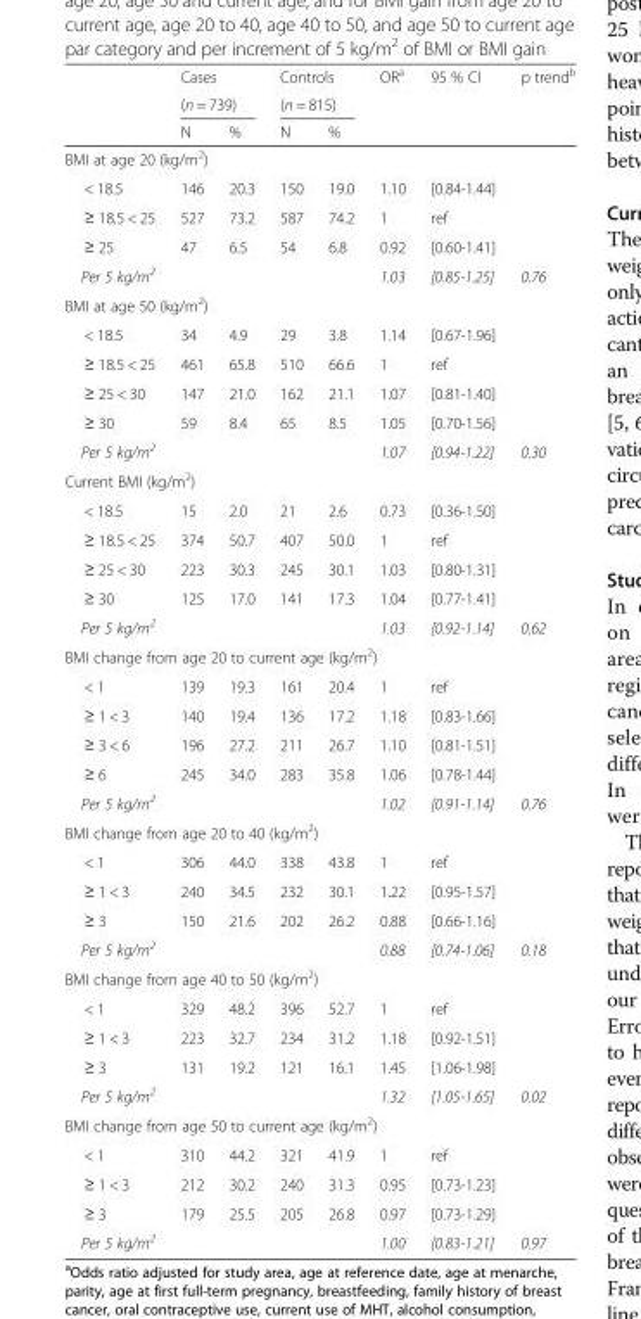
<table><thead><tr><td rowspan="3"></td><td rowspan="2" colspan="2">Cases (n = 739)</td><td rowspan="2" colspan="2">Controls (n = 815)</td><td rowspan="3">OR<sup>a</sup></td><td rowspan="3">95 % CI</td><td rowspan="3">p trend<sup>b</sup></td></tr><tr></tr><tr><td>N</td><td>%</td><td>N</td><td>%</td></tr></thead><tbody><tr><td colspan="8">BMI at age 20 (kg/m<sup>2</sup>)</td></tr><tr><td>&lt; 18.5</td><td>146</td><td>20.3</td><td>150</td><td>19.0</td><td>1.10</td><td>[0.84-1.44]</td><td></td></tr><tr><td>≥ 18.5 &lt; 25</td><td>527</td><td>73.2</td><td>587</td><td>74.2</td><td>1</td><td>ref</td><td></td></tr><tr><td>≥ 25</td><td>47</td><td>6.5</td><td>54</td><td>6.8</td><td>0.92</td><td>[0.60-1.41]</td><td></td></tr><tr><td>Per 5 kg/m<sup>2</sup></td><td colspan="2"></td><td colspan="2"></td><td>1.03</td><td>[0.85-1.25]</td><td>0.76</td></tr><tr><td colspan="8">BMI at age 50 (kg/m<sup>2</sup>)</td></tr><tr><td>&lt; 18.5</td><td>34</td><td>4.9</td><td>29</td><td>3.8</td><td>1.14</td><td>[0.67-1.96]</td><td></td></tr><tr><td>≥ 18.5 &lt; 25</td><td>461</td><td>65.8</td><td>510</td><td>66.6</td><td>1</td><td>ref</td><td></td></tr><tr><td>≥ 25 &lt; 30</td><td>147</td><td>21.0</td><td>162</td><td>21.1</td><td>1.07</td><td>[0.81-1.40]</td><td></td></tr><tr><td>≥ 30</td><td>59</td><td>8.4</td><td>65</td><td>8.5</td><td>1.05</td><td>[0.70-1.56]</td><td></td></tr><tr><td>Per 5 kg/m<sup>2</sup></td><td colspan="2"></td><td colspan="2"></td><td>1.07</td><td>[0.94-1.22]</td><td>0.30</td></tr><tr><td colspan="8">Current BMI (kg/m<sup>2</sup>)</td></tr><tr><td>&lt; 18.5</td><td>15</td><td>2.0</td><td>21</td><td>2.6</td><td>0.73</td><td>[0.36-1.50]</td><td></td></tr><tr><td>≥ 18.5 &lt; 25</td><td>374</td><td>50.7</td><td>407</td><td>50.0</td><td>1</td><td>ref</td><td></td></tr><tr><td>≥ 25 &lt; 30</td><td>223</td><td>30.3</td><td>245</td><td>30.1</td><td>1.03</td><td>[0.80-1.31]</td><td></td></tr><tr><td>≥ 30</td><td>125</td><td>17.0</td><td>141</td><td>17.3</td><td>1.04</td><td>[0.77-1.41]</td><td></td></tr><tr><td>Per 5 kg/m<sup>2</sup></td><td colspan="2"></td><td colspan="2"></td><td>1.03</td><td>[0.92-1.14]</td><td>0.62</td></tr><tr><td colspan="8">BMI change from age 20 to current age (kg/m<sup>2</sup>)</td></tr><tr><td>&lt; 1</td><td>139</td><td>19.3</td><td>161</td><td>20.4</td><td>1</td><td>ref</td><td></td></tr><tr><td>≥ 1 &lt; 3</td><td>140</td><td>19.4</td><td>136</td><td>17.2</td><td>1.18</td><td>[0.83-1.66]</td><td></td></tr><tr><td>≥ 3 &lt; 6</td><td>196</td><td>27.2</td><td>211</td><td>26.7</td><td>1.10</td><td>[0.81-1.51]</td><td></td></tr><tr><td>≥ 6</td><td>245</td><td>34.0</td><td>283</td><td>35.8</td><td>1.06</td><td>[0.78-1.44]</td><td></td></tr><tr><td>Per 5 kg/m<sup>2</sup></td><td colspan="2"></td><td colspan="2"></td><td>1.02</td><td>[0.91-1.14]</td><td>0.76</td></tr><tr><td colspan="8">BMI change from age 20 to 40 (kg/m<sup>2</sup>)</td></tr><tr><td>&lt; 1</td><td>306</td><td>44.0</td><td>338</td><td>43.8</td><td>1</td><td>ref</td><td></td></tr><tr><td>≥ 1 &lt; 3</td><td>240</td><td>34.5</td><td>232</td><td>30.1</td><td>1.22</td><td>[0.95-1.57]</td><td></td></tr><tr><td>≥ 3</td><td>150</td><td>21.6</td><td>202</td><td>26.2</td><td>0.88</td><td>[0.66-1.16]</td><td></td></tr><tr><td>Per 5 kg/m<sup>2</sup></td><td colspan="2"></td><td colspan="2"></td><td>0.88</td><td>[0.74-1.06]</td><td>0.18</td></tr><tr><td colspan="8">BMI change from age 40 to 50 (kg/m<sup>2</sup>)</td></tr><tr><td>&lt; 1</td><td>329</td><td>48.2</td><td>396</td><td>52.7</td><td>1</td><td>ref</td><td></td></tr><tr><td>≥ 1 &lt; 3</td><td>223</td><td>32.7</td><td>234</td><td>31.2</td><td>1.18</td><td>[0.92-1.51]</td><td></td></tr><tr><td>≥ 3</td><td>131</td><td>19.2</td><td>121</td><td>16.1</td><td>1.45</td><td>[1.06-1.98]</td><td></td></tr><tr><td>Per 5 kg/m<sup>2</sup></td><td colspan="2"></td><td colspan="2"></td><td>1.32</td><td>[1.05-1.65]</td><td>0.02</td></tr><tr><td colspan="8">BMI change from age 50 to current age (kg/m<sup>2</sup>)</td></tr><tr><td>&lt; 1</td><td>310</td><td>44.2</td><td>321</td><td>41.9</td><td>1</td><td>ref</td><td></td></tr><tr><td>≥ 1 &lt; 3</td><td>212</td><td>30.2</td><td>240</td><td>31.3</td><td>0.95</td><td>[0.73-1.23]</td><td></td></tr><tr><td>≥ 3</td><td>179</td><td>25.5</td><td>205</td><td>26.8</td><td>0.97</td><td>[0.73-1.29]</td><td></td></tr><tr><td>Per 5 kg/m<sup>2</sup></td><td colspan="2"></td><td colspan="2"></td><td>1.00</td><td>[0.83-1.21]</td><td>0.97</td></tr></tbody></table>